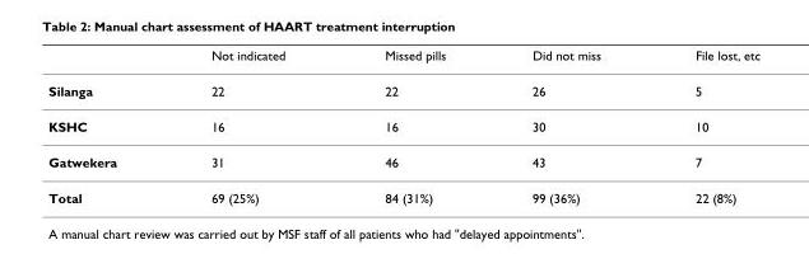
<table><thead><tr><td></td><td>Not indicated</td><td>Missed pills</td><td>Did not miss</td><td>File lost, etc</td></tr></thead><tbody><tr><td>Silanga</td><td>22</td><td>22</td><td>26</td><td>5</td></tr><tr><td>KSHC</td><td>16</td><td>16</td><td>30</td><td>10</td></tr><tr><td>Gatwekera</td><td>31</td><td>46</td><td>43</td><td>7</td></tr><tr><td>Total</td><td>69 (25%)</td><td>84 (31%)</td><td>99 (36%)</td><td>22 (8%)</td></tr></tbody></table>